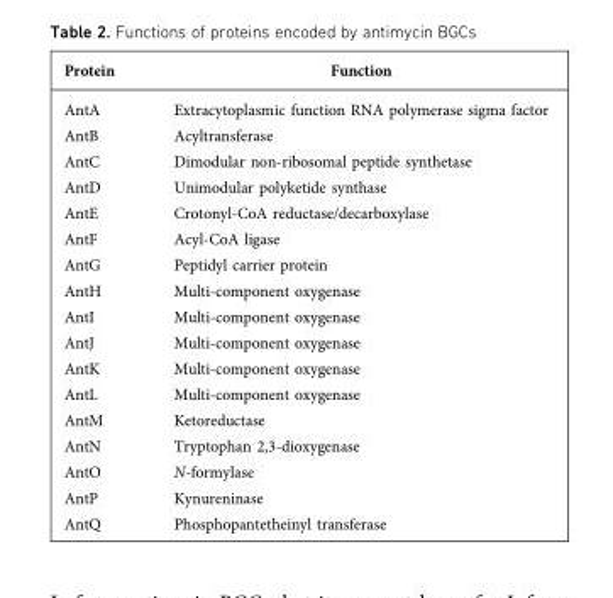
<table><thead><tr><td>Protein</td><td>Function</td></tr></thead><tbody><tr><td>AntA</td><td>Extracytoplasmic function RNA polymerase sigma factor</td></tr><tr><td>AntB</td><td>Acyltransferase</td></tr><tr><td>AntC</td><td>Dimodular non-ribosomal peptide synthetase</td></tr><tr><td>AntD</td><td>Unimodular polyketide synthase</td></tr><tr><td>AntE</td><td>Crotonyl-CoA reductase/decarboxylase</td></tr><tr><td>AntF</td><td>Acyl-CoA ligase</td></tr><tr><td>AntG</td><td>Peptidyl carrier protein</td></tr><tr><td>AntH</td><td>Multi-component oxygenase</td></tr><tr><td>AntI</td><td>Multi-component oxygenase</td></tr><tr><td>AntJ</td><td>Multi-component oxygenase</td></tr><tr><td>AntK</td><td>Multi-component oxygenase</td></tr><tr><td>AntL</td><td>Multi-component oxygenase</td></tr><tr><td>AntM</td><td>Ketoreductase</td></tr><tr><td>AntN</td><td>Tryptophan 2,3-dioxygenase</td></tr><tr><td>AntO</td><td>N-formylase</td></tr><tr><td>AntP</td><td>Kynureninase</td></tr><tr><td>AntQ</td><td>Phosphopantetheinyl transferase</td></tr></tbody></table>